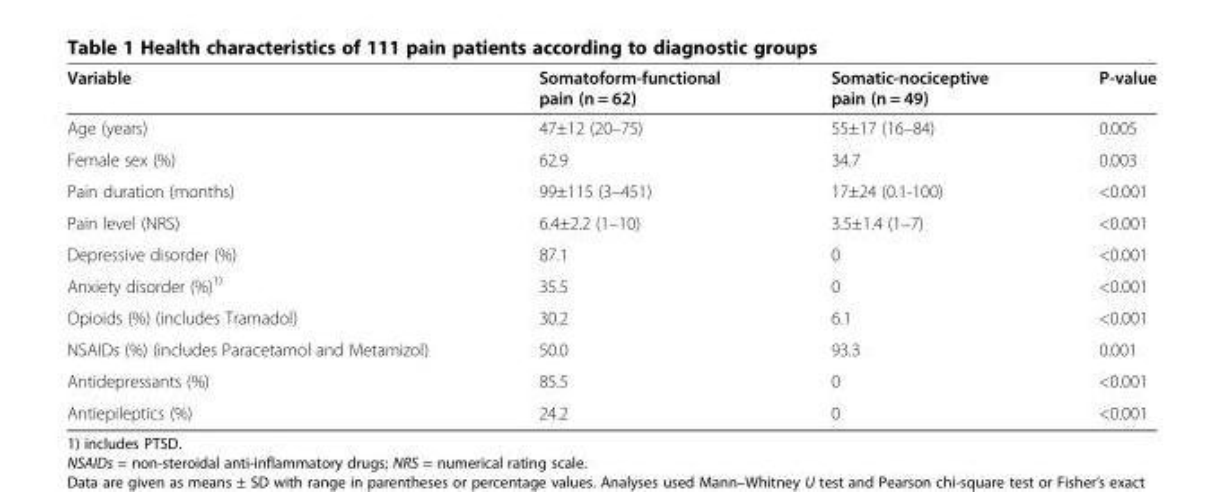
<table><thead><tr><td>Variable</td><td>Somatoform-functional pain (n = 62)</td><td>Somatic-nociceptive pain (n = 49)</td><td>P-value</td></tr></thead><tbody><tr><td>Age (years)</td><td>47±12 (20–75)</td><td>55±17 (16–84)</td><td>0.005</td></tr><tr><td>Female sex (%)</td><td>62.9</td><td>34.7</td><td>0.003</td></tr><tr><td>Pain duration (months)</td><td>99±115 (3–451)</td><td>17±24 (0.1-100)</td><td>&lt;0.001</td></tr><tr><td>Pain level (NRS)</td><td>6.4±2.2 (1–10)</td><td>3.5±1.4 (1–7)</td><td>&lt;0.001</td></tr><tr><td>Depressive disorder (%)</td><td>87.1</td><td>0</td><td>&lt;0.001</td></tr><tr><td>Anxiety disorder (%)<sup>1)</sup></td><td>35.5</td><td>0</td><td>&lt;0.001</td></tr><tr><td>Opioids (%) (includes Tramadol)</td><td>30.2</td><td>6.1</td><td>&lt;0.001</td></tr><tr><td>NSAIDs (%) (includes Paracetamol and Metamizol)</td><td>50.0</td><td>93.3</td><td>0.001</td></tr><tr><td>Antidepressants (%)</td><td>85.5</td><td>0</td><td>&lt;0.001</td></tr><tr><td>Antiepileptics (%)</td><td>24.2</td><td>0</td><td>&lt;0.001</td></tr></tbody></table>